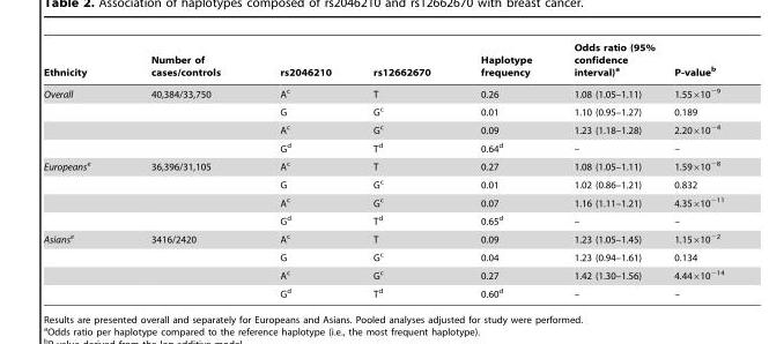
<table><thead><tr><td>Ethnicity</td><td>Number of cases/controls</td><td>rs2046210</td><td>rs12662670</td><td>Haplotype frequency</td><td>Odds ratio (95% confidence interval)<sup>a</sup></td><td>P-value<sup>b</sup></td></tr></thead><tbody><tr><td rowspan="4">Overall</td><td>40,384/33,750</td><td>A<sup>c</sup></td><td>T</td><td>0.26</td><td>1.08 (1.05–1.11)</td><td>1.55×10<sup>−9</sup></td></tr><tr><td></td><td>G</td><td>G<sup>c</sup></td><td>0.01</td><td>1.10 (0.95–1.27)</td><td>0.189</td></tr><tr><td></td><td>A<sup>c</sup></td><td>G<sup>c</sup></td><td>0.09</td><td>1.23 (1.18–1.28)</td><td>2.20×10<sup>−4</sup></td></tr><tr><td></td><td>G<sup>d</sup></td><td>T<sup>d</sup></td><td>0.64<sup>d</sup></td><td>–</td><td>–</td></tr><tr><td rowspan="4">Europeans<sup>e</sup></td><td>36,396/31,105</td><td>A<sup>c</sup></td><td>T</td><td>0.27</td><td>1.08 (1.05–1.11)</td><td>1.59×10<sup>−8</sup></td></tr><tr><td></td><td>G</td><td>G<sup>c</sup></td><td>0.01</td><td>1.02 (0.86–1.21)</td><td>0.832</td></tr><tr><td></td><td>A<sup>c</sup></td><td>G<sup>c</sup></td><td>0.07</td><td>1.16 (1.11–1.21)</td><td>4.35×10<sup>−11</sup></td></tr><tr><td></td><td>G<sup>d</sup></td><td>T<sup>d</sup></td><td>0.65<sup>d</sup></td><td>–</td><td>–</td></tr><tr><td rowspan="4">Asians<sup>e</sup></td><td>3416/2420</td><td>A<sup>c</sup></td><td>T</td><td>0.09</td><td>1.23 (1.05–1.45)</td><td>1.15×10<sup>−2</sup></td></tr><tr><td></td><td>G</td><td>G<sup>c</sup></td><td>0.04</td><td>1.23 (0.94–1.61)</td><td>0.134</td></tr><tr><td></td><td>A<sup>c</sup></td><td>G<sup>c</sup></td><td>0.27</td><td>1.42 (1.30–1.56)</td><td>4.44×10<sup>−14</sup></td></tr><tr><td></td><td>G<sup>d</sup></td><td>T<sup>d</sup></td><td>0.60<sup>d</sup></td><td>–</td><td>–</td></tr></tbody></table>